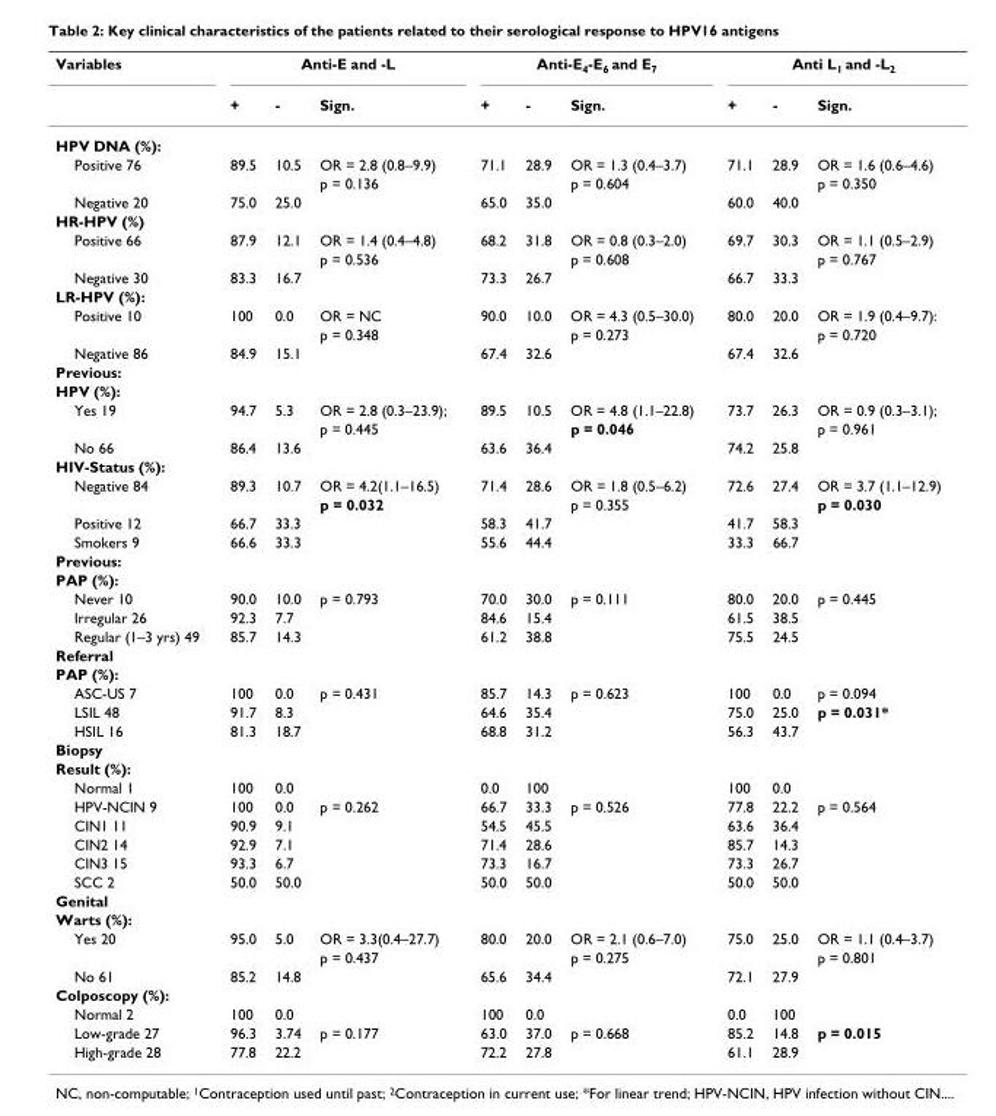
<table><thead><tr><td rowspan="2">Variables</td><td colspan="3">Anti-E and -L</td><td colspan="3">Anti-E<sub>4</sub>-E<sub>6</sub> and E<sub>7</sub></td><td colspan="3">Anti L<sub>1</sub> and -L<sub>2</sub></td></tr><tr><td>+</td><td>-</td><td>Sign.</td><td>+</td><td>-</td><td>Sign.</td><td>+</td><td>-</td><td>Sign.</td></tr></thead><tbody><tr><td colspan="10">HPV DNA (%):</td></tr><tr><td rowspan="2">Positive 76</td><td>89.5</td><td>10.5</td><td>OR = 2.8 (0.8–9.9)</td><td>71.1</td><td>28.9</td><td>OR = 1.3 (0.4–3.7)</td><td>71.1</td><td>28.9</td><td>OR = 1.6 (0.6–4.6)</td></tr><tr><td></td><td></td><td>p = 0.136</td><td></td><td></td><td>p = 0.604</td><td></td><td></td><td>p = 0.350</td></tr><tr><td>Negative 20</td><td>75.0</td><td>25.0</td><td></td><td>65.0</td><td>35.0</td><td></td><td>60.0</td><td>40.0</td><td></td></tr><tr><td colspan="10">HR-HPV (%)</td></tr><tr><td rowspan="2">Positive 66</td><td>87.9</td><td>12.1</td><td>OR = 1.4 (0.4–4.8)</td><td>68.2</td><td>31.8</td><td>OR = 0.8 (0.3–2.0)</td><td>69.7</td><td>30.3</td><td>OR = 1.1 (0.5–2.9)</td></tr><tr><td></td><td></td><td>p = 0.536</td><td></td><td></td><td>p = 0.608</td><td></td><td></td><td>p = 0.767</td></tr><tr><td>Negative 30</td><td>83.3</td><td>16.7</td><td></td><td>73.3</td><td>26.7</td><td></td><td>66.7</td><td>33.3</td><td></td></tr><tr><td colspan="10">LR-HPV (%):</td></tr><tr><td rowspan="2">Positive 10</td><td>100</td><td>0.0</td><td>OR = NC</td><td>90.0</td><td>10.0</td><td>OR = 4.3 (0.5–30.0)</td><td>80.0</td><td>20.0</td><td>OR = 1.9 (0.4–9.7):</td></tr><tr><td></td><td></td><td>p = 0.348</td><td></td><td></td><td>p = 0.273</td><td></td><td></td><td>p = 0.720</td></tr><tr><td>Negative 86</td><td>84.9</td><td>15.1</td><td></td><td>67.4</td><td>32.6</td><td></td><td>67.4</td><td>32.6</td><td></td></tr><tr><td colspan="10">Previous:</td></tr><tr><td colspan="10">HPV (%):</td></tr><tr><td rowspan="2">Yes 19</td><td>94.7</td><td>5.3</td><td>OR = 2.8 (0.3–23.9);</td><td>89.5</td><td>10.5</td><td>OR = 4.8 (1.1–22.8)</td><td>73.7</td><td>26.3</td><td>OR = 0.9 (0.3–3.1);</td></tr><tr><td></td><td></td><td>p = 0.445</td><td></td><td></td><td>p = 0.046</td><td></td><td></td><td>p = 0.961</td></tr><tr><td>No 66</td><td>86.4</td><td>13.6</td><td></td><td>63.6</td><td>36.4</td><td></td><td>74.2</td><td>25.8</td><td></td></tr><tr><td colspan="10">HIV-Status (%):</td></tr><tr><td rowspan="2">Negative 84</td><td>89.3</td><td>10.7</td><td>OR = 4.2(1.1–16.5)</td><td>71.4</td><td>28.6</td><td>OR = 1.8 (0.5–6.2)</td><td>72.6</td><td>27.4</td><td>OR = 3.7 (1.1–12.9)</td></tr><tr><td></td><td></td><td>p = 0.032</td><td></td><td></td><td>p = 0.355</td><td></td><td></td><td>p = 0.030</td></tr><tr><td>Positive 12</td><td>66.7</td><td>33.3</td><td></td><td>58.3</td><td>41.7</td><td></td><td>41.7</td><td>58.3</td><td></td></tr><tr><td>Smokers 9</td><td>66.6</td><td>33.3</td><td></td><td>55.6</td><td>44.4</td><td></td><td>33.3</td><td>66.7</td><td></td></tr><tr><td colspan="10">Previous:</td></tr><tr><td colspan="10">PAP (%):</td></tr><tr><td>Never 10</td><td>90.0</td><td>10.0</td><td>p = 0.793</td><td>70.0</td><td>30.0</td><td>p = 0.111</td><td>80.0</td><td>20.0</td><td>p = 0.445</td></tr><tr><td>Irregular 26</td><td>92.3</td><td>7.7</td><td></td><td>84.6</td><td>15.4</td><td></td><td>61.5</td><td>38.5</td><td></td></tr><tr><td>Regular (1–3 yrs) 49</td><td>85.7</td><td>14.3</td><td></td><td>61.2</td><td>38.8</td><td></td><td>75.5</td><td>24.5</td><td></td></tr><tr><td colspan="10">Referral</td></tr><tr><td colspan="10">PAP (%):</td></tr><tr><td>ASC-US 7</td><td>100</td><td>0.0</td><td>p = 0.431</td><td>85.7</td><td>14.3</td><td>p = 0.623</td><td>100</td><td>0.0</td><td>p = 0.094</td></tr><tr><td>LSIL 48</td><td>91.7</td><td>8.3</td><td></td><td>64.6</td><td>35.4</td><td></td><td>75.0</td><td>25.0</td><td>p = 0.031*</td></tr><tr><td>HSIL 16</td><td>81.3</td><td>18.7</td><td></td><td>68.8</td><td>31.2</td><td></td><td>56.3</td><td>43.7</td><td></td></tr><tr><td colspan="10">Biopsy</td></tr><tr><td colspan="10">Result (%):</td></tr><tr><td>Normal 1</td><td>100</td><td>0.0</td><td></td><td>0.0</td><td>100</td><td></td><td>100</td><td>0.0</td><td></td></tr><tr><td>HPV-NCIN 9</td><td>100</td><td>0.0</td><td>p = 0.262</td><td>66.7</td><td>33.3</td><td>p = 0.526</td><td>77.8</td><td>22.2</td><td>p = 0.564</td></tr><tr><td>CIN1 11</td><td>90.9</td><td>9.1</td><td></td><td>54.5</td><td>45.5</td><td></td><td>63.6</td><td>36.4</td><td></td></tr><tr><td>CIN2 14</td><td>92.9</td><td>7.1</td><td></td><td>71.4</td><td>28.6</td><td></td><td>85.7</td><td>14.3</td><td></td></tr><tr><td>CIN3 15</td><td>93.3</td><td>6.7</td><td></td><td>73.3</td><td>16.7</td><td></td><td>73.3</td><td>26.7</td><td></td></tr><tr><td>SCC 2</td><td>50.0</td><td>50.0</td><td></td><td>50.0</td><td>50.0</td><td></td><td>50.0</td><td>50.0</td><td></td></tr><tr><td colspan="10">Genital</td></tr><tr><td colspan="10">Warts (%):</td></tr><tr><td rowspan="2">Yes 20</td><td>95.0</td><td>5.0</td><td>OR = 3.3(0.4–27.7)</td><td>80.0</td><td>20.0</td><td>OR = 2.1 (0.6–7.0)</td><td>75.0</td><td>25.0</td><td>OR = 1.1 (0.4–3.7)</td></tr><tr><td></td><td></td><td>p = 0.437</td><td></td><td></td><td>p = 0.275</td><td></td><td></td><td>p = 0.801</td></tr><tr><td>No 61</td><td>85.2</td><td>14.8</td><td></td><td>65.6</td><td>34.4</td><td></td><td>72.1</td><td>27.9</td><td></td></tr><tr><td colspan="10">Colposcopy (%):</td></tr><tr><td>Normal 2</td><td>100</td><td>0.0</td><td></td><td>100</td><td>0.0</td><td></td><td>0.0</td><td>100</td><td></td></tr><tr><td>Low-grade 27</td><td>96.3</td><td>3.74</td><td>p = 0.177</td><td>63.0</td><td>37.0</td><td>p = 0.668</td><td>85.2</td><td>14.8</td><td>p = 0.015</td></tr><tr><td>High-grade 28</td><td>77.8</td><td>22.2</td><td></td><td>72.2</td><td>27.8</td><td></td><td>61.1</td><td>28.9</td><td></td></tr></tbody></table>